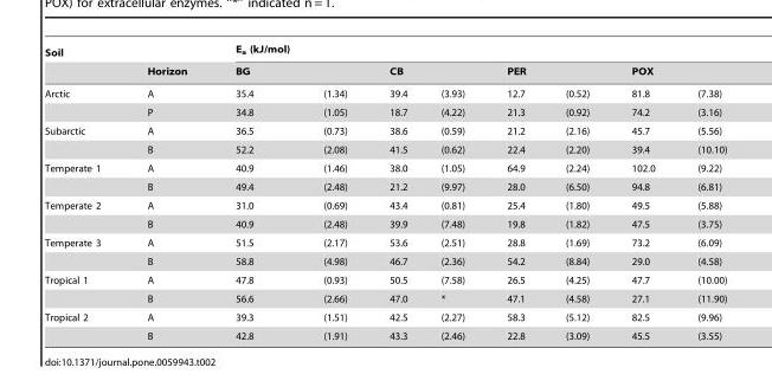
<table><thead><tr><td rowspan="3">Soil Arctic</td><td rowspan="3">Horizon A</td><td colspan="8">E<sub>a</sub> (kJ/mol)</td></tr><tr><td colspan="2">BG</td><td colspan="2">CB</td><td colspan="2">PER</td><td colspan="2">POX</td></tr><tr><td>35.4</td><td>(1.34)</td><td>39.4</td><td>(3.93)</td><td>12.7</td><td>(0.52)</td><td>81.8</td><td>(7.38)</td></tr></thead><tbody><tr><td></td><td>P</td><td>34.8</td><td>(1.05)</td><td>18.7</td><td>(4.22)</td><td>21.3</td><td>(0.92)</td><td>74.2</td><td>(3.16)</td></tr><tr><td rowspan="2">Subarctic</td><td>A</td><td>36.5</td><td>(0.73)</td><td>38.6</td><td>(0.59)</td><td>21.2</td><td>(2.16)</td><td>45.7</td><td>(5.56)</td></tr><tr><td>B</td><td>52.2</td><td>(2.08)</td><td>41.5</td><td>(0.62)</td><td>22.4</td><td>(2.20)</td><td>39.4</td><td>(10.10)</td></tr><tr><td rowspan="2">Temperate 1</td><td>A</td><td>40.9</td><td>(1.46)</td><td>38.0</td><td>(1.05)</td><td>64.9</td><td>(2.24)</td><td>102.0</td><td>(9.22)</td></tr><tr><td>B</td><td>49.4</td><td>(2.48)</td><td>21.2</td><td>(9.97)</td><td>28.0</td><td>(6.50)</td><td>94.8</td><td>(6.81)</td></tr><tr><td rowspan="2">Temperate 2</td><td>A</td><td>31.0</td><td>(0.69)</td><td>43.4</td><td>(0.81)</td><td>25.4</td><td>(1.80)</td><td>49.5</td><td>(5.88)</td></tr><tr><td>B</td><td>40.9</td><td>(2.48)</td><td>39.9</td><td>(7.48)</td><td>19.8</td><td>(1.82)</td><td>47.5</td><td>(3.75)</td></tr><tr><td rowspan="2">Temperate 3</td><td>A</td><td>51.5</td><td>(2.17)</td><td>53.6</td><td>(2.51)</td><td>28.8</td><td>(1.69)</td><td>73.2</td><td>(6.09)</td></tr><tr><td>B</td><td>58.8</td><td>(4.98)</td><td>46.7</td><td>(2.36)</td><td>54.2</td><td>(8.84)</td><td>29.0</td><td>(4.58)</td></tr><tr><td rowspan="2">Tropical 1</td><td>A</td><td>47.8</td><td>(0.93)</td><td>50.5</td><td>(7.58)</td><td>26.5</td><td>(4.25)</td><td>47.7</td><td>(10.00)</td></tr><tr><td>B</td><td>56.6</td><td>(2.66)</td><td>47.0</td><td>*</td><td>47.1</td><td>(4.58)</td><td>27.1</td><td>(11.90)</td></tr><tr><td rowspan="2">Tropical 2</td><td>A</td><td>39.3</td><td>(1.51)</td><td>42.5</td><td>(2.27)</td><td>58.3</td><td>(5.12)</td><td>82.5</td><td>(9.96)</td></tr><tr><td>B</td><td>42.8</td><td>(1.91)</td><td>43.3</td><td>(2.46)</td><td>22.8</td><td>(3.09)</td><td>45.5</td><td>(3.55)</td></tr></tbody></table>